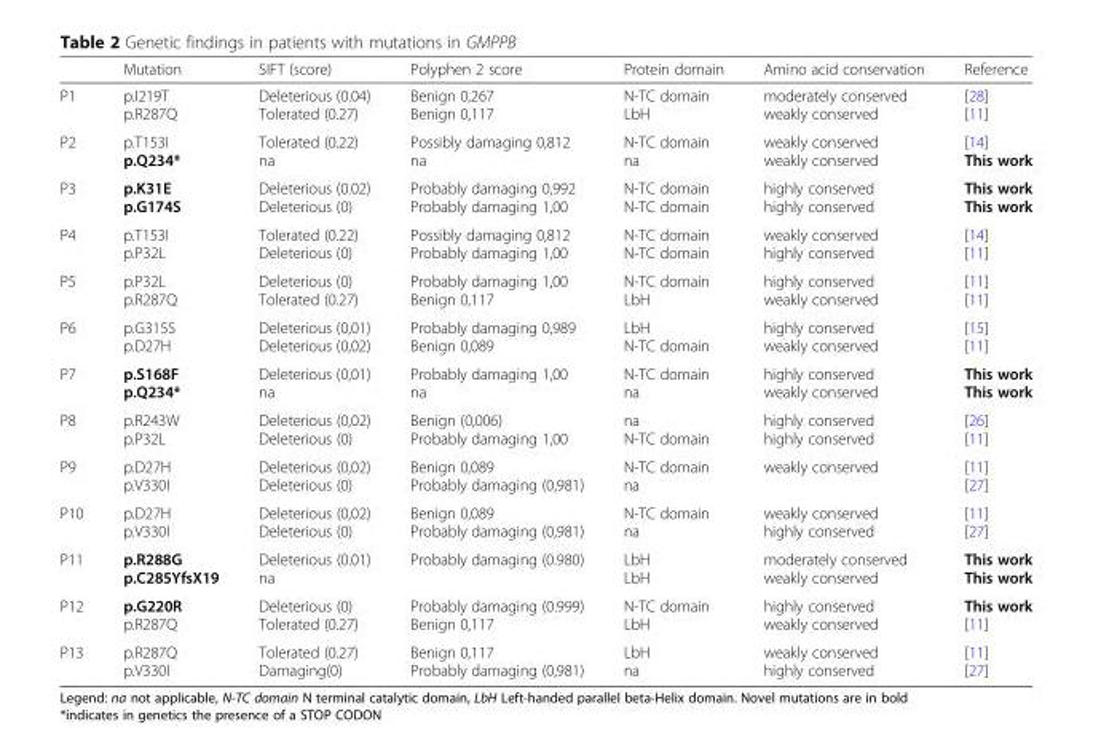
<table><thead><tr><td></td><td>Mutation</td><td>SIFT (score)</td><td>Polyphen 2 score</td><td>Protein domain</td><td>Amino acid conservation</td><td>Reference</td></tr></thead><tbody><tr><td>P1</td><td>p.I219T p.R287Q</td><td>Deleterious (0.04) Tolerated (0.27)</td><td>Benign 0,267 Benign 0,117</td><td>N-TC domain LbH</td><td>moderately conserved weakly conserved</td><td>[28] [11]</td></tr><tr><td>P2</td><td>p.T153I p.Q234*</td><td>Tolerated (0.22) na</td><td>Possibly damaging 0,812 na</td><td>N-TC domain na</td><td>weakly conserved weakly conserved</td><td>[14] This work</td></tr><tr><td>P3</td><td>p.K31E p.G174S</td><td>Deleterious (0.02) Deleterious (0)</td><td>Probably damaging 0,992 Probably damaging 1,00</td><td>N-TC domain N-TC domain</td><td>highly conserved highly conserved</td><td>This work This work</td></tr><tr><td>P4</td><td>p.T153I p.P32L</td><td>Tolerated (0.22) Deleterious (0)</td><td>Possibly damaging 0,812 Probably damaging 1,00</td><td>N-TC domain N-TC domain</td><td>weakly conserved highly conserved</td><td>[14] [11]</td></tr><tr><td>P5</td><td>p.P32L p.R287Q</td><td>Deleterious (0) Tolerated (0.27)</td><td>Probably damaging 1,00 Benign 0,117</td><td>N-TC domain LbH</td><td>highly conserved weakly conserved</td><td>[11] [11]</td></tr><tr><td>P6</td><td>p.G315S p.D27H</td><td>Deleterious (0,01) Deleterious (0,02)</td><td>Probably damaging 0,989 Benign 0,089</td><td>LbH N-TC domain</td><td>highly conserved weakly conserved</td><td>[15] [11]</td></tr><tr><td>P7</td><td>p.S168F p.Q234*</td><td>Deleterious (0,01) na</td><td>Probably damaging 1,00 na</td><td>N-TC domain na</td><td>highly conserved weakly conserved</td><td>This work This work</td></tr><tr><td>P8</td><td>p.R243W p.P32L</td><td>Deleterious (0,02) Deleterious (0)</td><td>Benign (0,006) Probably damaging 1,00</td><td>na N-TC domain</td><td>highly conserved highly conserved</td><td>[26] [11]</td></tr><tr><td>P9</td><td>p.D27H p.V330I</td><td>Deleterious (0,02) Deleterious (0)</td><td>Benign 0,089 Probably damaging (0,981)</td><td>N-TC domain na</td><td>weakly conserved</td><td>[11] [27]</td></tr><tr><td>P10</td><td>p.D27H p.V330I</td><td>Deleterious (0,02) Deleterious (0)</td><td>Benign 0,089 Probably damaging (0,981)</td><td>N-TC domain na</td><td>weakly conserved highly conserved</td><td>[11] [27]</td></tr><tr><td>P11</td><td>p.R288G p.C285YfsX19</td><td>Deleterious (0.01) na</td><td>Probably damaging (0.980)</td><td>LbH LbH</td><td>moderately conserved weakly conserved</td><td>This work This work</td></tr><tr><td>P12</td><td>p.G220R p.R287Q</td><td>Deleterious (0) Tolerated (0.27)</td><td>Probably damaging (0.999) Benign 0,117</td><td>N-TC domain LbH</td><td>highly conserved weakly conserved</td><td>This work [11]</td></tr><tr><td>P13</td><td>p.R287Q p.V330I</td><td>Tolerated (0.27) Damaging(0)</td><td>Benign 0,117 Probably damaging (0,981)</td><td>LbH na</td><td>weakly conserved highly conserved</td><td>[11] [27]</td></tr></tbody></table>